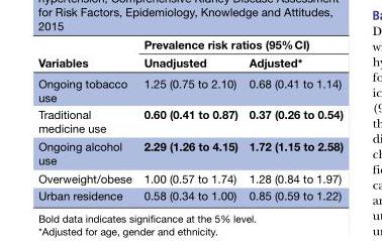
<table><thead><tr><td rowspan="2">Variables</td><td colspan="2">Prevalence risk ratios (95% CI)</td></tr><tr><td>Unadjusted</td><td>Adjusted*</td></tr></thead><tbody><tr><td>Ongoing tobacco use</td><td>1.25 (0.75 to 2.10)</td><td>0.68 (0.41 to 1.14)</td></tr><tr><td>Traditional medicine use</td><td>0.60 (0.41 to 0.87)</td><td>0.37 (0.26 to 0.54)</td></tr><tr><td>Ongoing alcohol use</td><td>2.29 (1.26 to 4.15)</td><td>1.72 (1.15 to 2.58)</td></tr><tr><td>Overweight/obese</td><td>1.00 (0.57 to 1.74)</td><td>1.28 (0.84 to 1.97)</td></tr><tr><td>Urban residence</td><td>0.58 (0.34 to 1.00)</td><td>0.85 (0.59 to 1.22)</td></tr></tbody></table>